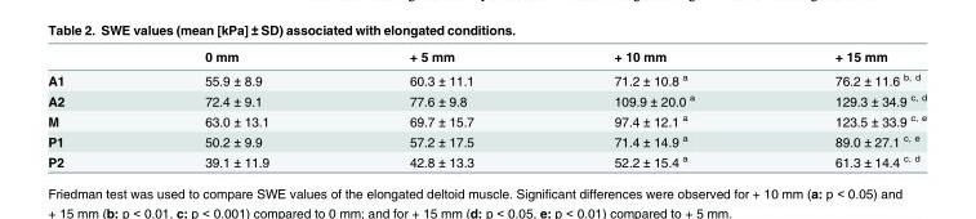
<table><thead><tr><td></td><td>0 mm</td><td>+ 5 mm</td><td>+ 10 mm</td><td>+ 15 mm</td></tr></thead><tbody><tr><td>A1</td><td>55.9 ± 8.9</td><td>60.3 ± 11.1</td><td>71.2 ± 10.8 <sup>a</sup></td><td>76.2 ± 11.6 <sup>b, d</sup></td></tr><tr><td>A2</td><td>72.4 ± 9.1</td><td>77.6 ± 9.8</td><td>109.9 ± 20.0 <sup>a</sup></td><td>129.3 ± 34.9 <sup>c, d</sup></td></tr><tr><td>M</td><td>63.0 ± 13.1</td><td>69.7 ± 15.7</td><td>97.4 ± 12.1 <sup>a</sup></td><td>123.5 ± 33.9 <sup>c, e</sup></td></tr><tr><td>P1</td><td>50.2 ± 9.9</td><td>57.2 ± 17.5</td><td>71.4 ± 14.9 <sup>a</sup></td><td>89.0 ± 27.1 <sup>c, e</sup></td></tr><tr><td>P2</td><td>39.1 ± 11.9</td><td>42.8 ± 13.3</td><td>52.2 ± 15.4 <sup>a</sup></td><td>61.3 ± 14.4 <sup>c, d</sup></td></tr></tbody></table>